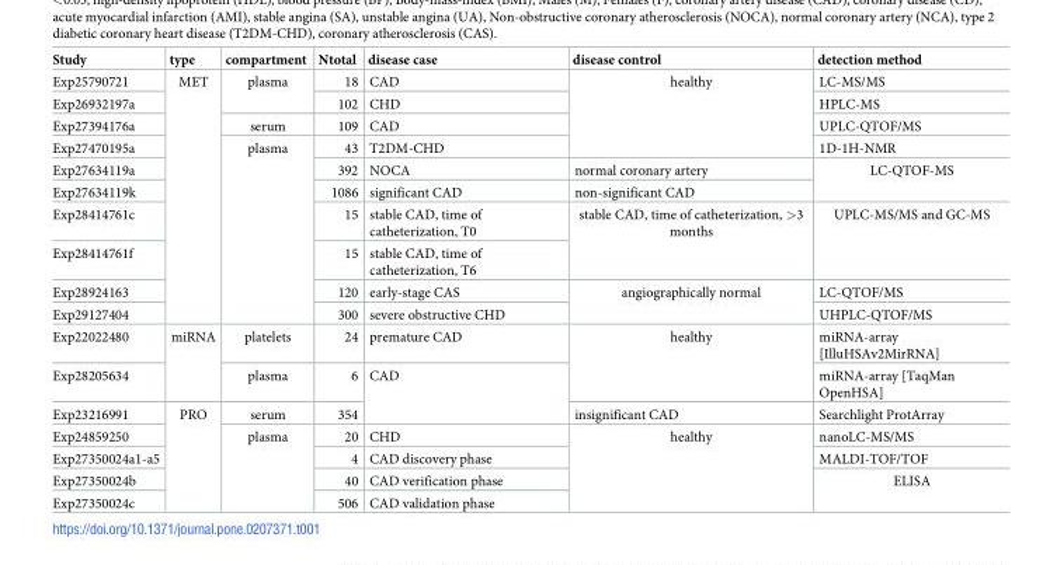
<table><thead><tr><td>Study</td><td>type</td><td>compartment</td><td>Ntotal</td><td>disease case</td><td>disease control</td><td>detection method</td></tr></thead><tbody><tr><td>Exp25790721</td><td rowspan="10">MET</td><td rowspan="2">plasma</td><td>18</td><td>CAD</td><td rowspan="4">healthy</td><td>LC-MS/MS</td></tr><tr><td>Exp26932197a</td><td>102</td><td>CHD</td><td>HPLC-MS</td></tr><tr><td>Exp27394176a</td><td>serum</td><td>109</td><td>CAD</td><td>UPLC-QTOF/MS</td></tr><tr><td>Exp27470195a</td><td rowspan="7">plasma</td><td>43</td><td>T2DM-CHD</td><td>1D-1H-NMR</td></tr><tr><td>Exp27634119a</td><td>392</td><td>NOCA</td><td>normal coronary artery</td><td rowspan="2">LC-QTOF-MS</td></tr><tr><td>Exp27634119k</td><td>1086</td><td>significant CAD</td><td>non-significant CAD</td></tr><tr><td>Exp28414761c</td><td>15</td><td>stable CAD, time of catheterization, T0</td><td rowspan="2">stable CAD, time of catheterization, &gt;3 months</td><td rowspan="2">UPLC-MS/MS and GC-MS</td></tr><tr><td>Exp28414761f</td><td>15</td><td>stable CAD, time of catheterization, T6</td></tr><tr><td>Exp28924163</td><td>120</td><td>early-stage CAS</td><td rowspan="2">angiographically normal</td><td>LC-QTOF/MS</td></tr><tr><td>Exp29127404</td><td>300</td><td>severe obstructive CHD</td><td>UHPLC-QTOF/MS</td></tr><tr><td>Exp22022480</td><td rowspan="2">miRNA</td><td>platelets</td><td>24</td><td>premature CAD</td><td rowspan="2">healthy</td><td>miRNA-array [IlluHSAv2MirRNA]</td></tr><tr><td>Exp28205634</td><td>plasma</td><td>6</td><td rowspan="2">CAD</td><td>miRNA-array [TaqMan OpenHSA]</td></tr><tr><td>Exp23216991</td><td rowspan="5">PRO</td><td>serum</td><td>354</td><td>insignificant CAD</td><td>Searchlight ProtArray</td></tr><tr><td>Exp24859250</td><td rowspan="4">plasma</td><td>20</td><td>CHD</td><td rowspan="4">healthy</td><td>nanoLC-MS/MS</td></tr><tr><td>Exp27350024a1-a5</td><td>4</td><td>CAD discovery phase</td><td>MALDI-TOF/TOF</td></tr><tr><td>Exp27350024b</td><td>40</td><td>CAD verification phase</td><td rowspan="2">ELISA</td></tr><tr><td>Exp27350024c</td><td>506</td><td>CAD validation phase</td></tr></tbody></table>